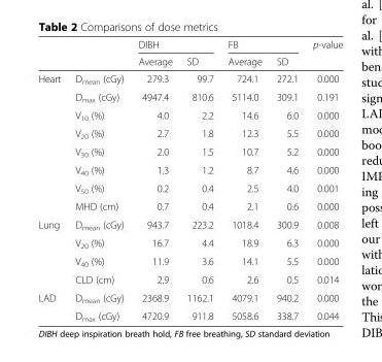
<table><thead><tr><td rowspan="2"></td><td rowspan="2"></td><td colspan="2">DIBH</td><td colspan="2">FB</td><td rowspan="2">p-value</td></tr><tr><td>Average</td><td>SD</td><td>Average</td><td>SD</td></tr></thead><tbody><tr><td rowspan="8">Heart</td><td>D<sub>mean</sub> (cGy)</td><td>279.3</td><td>99.7</td><td>724.1</td><td>272.1</td><td>0.000</td></tr><tr><td>D<sub>max</sub> (cGy)</td><td>4947.4</td><td>810.6</td><td>5114.0</td><td>309.1</td><td>0.191</td></tr><tr><td>V<sub>10</sub> (%)</td><td>4.0</td><td>2.2</td><td>14.6</td><td>6.0</td><td>0.000</td></tr><tr><td>V<sub>20</sub> (%)</td><td>2.7</td><td>1.8</td><td>12.3</td><td>5.5</td><td>0.000</td></tr><tr><td>V<sub>30</sub> (%)</td><td>2.0</td><td>1.5</td><td>10.7</td><td>5.2</td><td>0.000</td></tr><tr><td>V<sub>40</sub> (%)</td><td>1.3</td><td>1.2</td><td>8.7</td><td>4.6</td><td>0.000</td></tr><tr><td>V<sub>50</sub> (%)</td><td>0.2</td><td>0.4</td><td>2.5</td><td>4.0</td><td>0.001</td></tr><tr><td>MHD (cm)</td><td>0.7</td><td>0.4</td><td>2.1</td><td>0.6</td><td>0.000</td></tr><tr><td rowspan="4">Lung</td><td>D<sub>mean</sub> (cGy)</td><td>943.7</td><td>223.2</td><td>1018.4</td><td>300.9</td><td>0.008</td></tr><tr><td>V<sub>20</sub> (%)</td><td>16.7</td><td>4.4</td><td>18.9</td><td>6.3</td><td>0.000</td></tr><tr><td>V<sub>40</sub> (%)</td><td>11.9</td><td>3.6</td><td>14.1</td><td>5.5</td><td>0.000</td></tr><tr><td>CLD (cm)</td><td>2.9</td><td>0.6</td><td>2.6</td><td>0.5</td><td>0.014</td></tr><tr><td rowspan="2">LAD</td><td>D<sub>mean</sub> (cGy)</td><td>2368.9</td><td>1162.1</td><td>4079.1</td><td>940.2</td><td>0.000</td></tr><tr><td>D<sub>max</sub> (cGy)</td><td>4720.9</td><td>911.8</td><td>5058.6</td><td>338.7</td><td>0.044</td></tr></tbody></table>